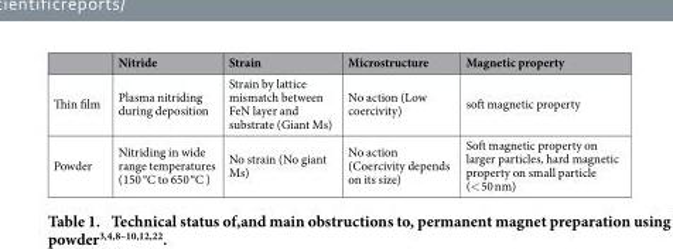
<table><thead><tr><td></td><td>Nitride</td><td>Strain</td><td>Microstructure</td><td>Magnetic property</td></tr></thead><tbody><tr><td>Thin film</td><td>Plasma nitriding during deposition</td><td>Strain by lattice mismatch between FeN layer and substrate (Giant Ms)</td><td>No action (Low coercivity)</td><td>soft magnetic property</td></tr><tr><td>Powder</td><td>Nitriding in wide range temperatures (150 °C to 650 °C )</td><td>No strain (No giant Ms)</td><td>No action (Coercivity depends on its size)</td><td>Soft magnetic property on larger particles, hard magnetic property on small particle (&lt; 50 nm)</td></tr></tbody></table>